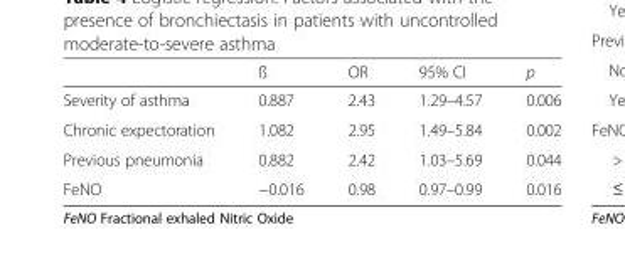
<table><thead><tr><td></td><td>ß</td><td>OR</td><td>95% CI</td><td>p</td></tr></thead><tbody><tr><td>Severity of asthma</td><td>0.887</td><td>2.43</td><td>1.29–4.57</td><td>0.006</td></tr><tr><td>Chronic expectoration</td><td>1.082</td><td>2.95</td><td>1.49–5.84</td><td>0.002</td></tr><tr><td>Previous pneumonia</td><td>0.882</td><td>2.42</td><td>1.03–5.69</td><td>0.044</td></tr><tr><td>FeNO</td><td>−0.016</td><td>0.98</td><td>0.97–0.99</td><td>0.016</td></tr></tbody></table>